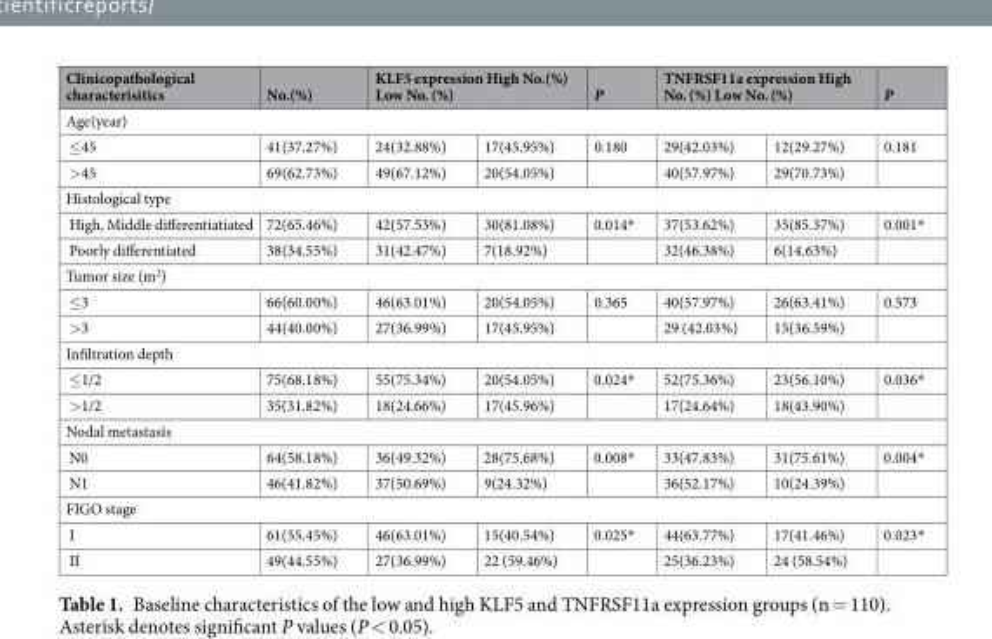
<table><thead><tr><td>Clinicopathological characterisitics</td><td>No.(%)</td><td colspan="2">KLF5 expression High No.(%) Low No. (%)</td><td>P</td><td colspan="2">TNFRSF11a expression High No. (%) Low No. (%)</td><td>P</td></tr><tr><td colspan="8">Age(year)</td></tr><tr><td>≤45</td><td>41(37.27%)</td><td>24(32.88%)</td><td>17(45.95%)</td><td>0.180</td><td>29(42.03%)</td><td>12(29.27%)</td><td>0.181</td></tr></thead><tbody><tr><td>&gt;45</td><td>69(62.73%)</td><td>49(67.12%)</td><td>20(54.05%)</td><td></td><td>40(57.97%)</td><td>29(70.73%)</td><td></td></tr><tr><td colspan="8">Histological type</td></tr><tr><td>High, Middle differentiatiated</td><td>72(65.46%)</td><td>42(57.53%)</td><td>30(81.08%)</td><td>0.014*</td><td>37(53.62%)</td><td>35(85.37%)</td><td>0.001*</td></tr><tr><td>Poorly differentiated</td><td>38(34.55%)</td><td>31(42.47%)</td><td>7(18.92%)</td><td></td><td>32(46.38%)</td><td>6(14.63%)</td><td></td></tr><tr><td colspan="8">Tumor size (m<sup>2</sup>)</td></tr><tr><td>≤3</td><td>66(60.00%)</td><td>46(63.01%)</td><td>20(54.05%)</td><td>0.365</td><td>40(57.97%)</td><td>26(63.41%)</td><td>0.573</td></tr><tr><td>&gt;3</td><td>44(40.00%)</td><td>27(36.99%)</td><td>17(45.95%)</td><td></td><td>29 (42.03%)</td><td>15(36.59%)</td><td></td></tr><tr><td colspan="8">Infiltration depth</td></tr><tr><td>≤1/2</td><td>75(68.18%)</td><td>55(75.34%)</td><td>20(54.05%)</td><td>0.024*</td><td>52(75.36%)</td><td>23(56.10%)</td><td>0.036*</td></tr><tr><td>&gt;1/2</td><td>35(31.82%)</td><td>18(24.66%)</td><td>17(45.96%)</td><td></td><td>17(24.64%)</td><td>18(43.90%)</td><td></td></tr><tr><td colspan="8">Nodal metastasis</td></tr><tr><td>N0</td><td>64(58.18%)</td><td>36(49.32%)</td><td>28(75.68%)</td><td>0.008*</td><td>33(47.83%)</td><td>31(75.61%)</td><td>0.004*</td></tr><tr><td>N1</td><td>46(41.82%)</td><td>37(50.69%)</td><td>9(24.32%)</td><td></td><td>36(52.17%)</td><td>10(24.39%)</td><td></td></tr><tr><td colspan="8">FIGO stage</td></tr><tr><td>I</td><td>61(55.45%)</td><td>46(63.01%)</td><td>15(40.54%)</td><td>0.025*</td><td>44(63.77%)</td><td>17(41.46%)</td><td>0.023*</td></tr><tr><td>II</td><td>49(44.55%)</td><td>27(36.99%)</td><td>22 (59.46%)</td><td></td><td>25(36.23%)</td><td>24 (58.54%)</td><td></td></tr></tbody></table>